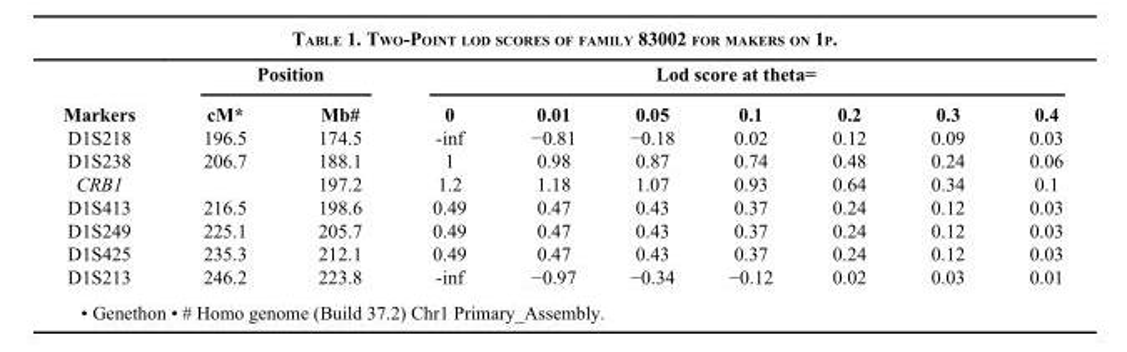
<table><thead><tr><td rowspan="2">Markers</td><td colspan="2">Position</td><td colspan="7">Lod score at theta=</td></tr><tr><td>cM*</td><td>Mb#</td><td>0</td><td>0.01</td><td>0.05</td><td>0.1</td><td>0.2</td><td>0.3</td><td>0.4</td></tr></thead><tbody><tr><td>D1S218</td><td>196.5</td><td>174.5</td><td>-inf</td><td>−0.81</td><td>−0.18</td><td>0.02</td><td>0.12</td><td>0.09</td><td>0.03</td></tr><tr><td>D1S238</td><td>206.7</td><td>188.1</td><td>1</td><td>0.98</td><td>0.87</td><td>0.74</td><td>0.48</td><td>0.24</td><td>0.06</td></tr><tr><td>CRB1</td><td></td><td>197.2</td><td>1.2</td><td>1.18</td><td>1.07</td><td>0.93</td><td>0.64</td><td>0.34</td><td>0.1</td></tr><tr><td>D1S413</td><td>216.5</td><td>198.6</td><td>0.49</td><td>0.47</td><td>0.43</td><td>0.37</td><td>0.24</td><td>0.12</td><td>0.03</td></tr><tr><td>D1S249</td><td>225.1</td><td>205.7</td><td>0.49</td><td>0.47</td><td>0.43</td><td>0.37</td><td>0.24</td><td>0.12</td><td>0.03</td></tr><tr><td>D1S425</td><td>235.3</td><td>212.1</td><td>0.49</td><td>0.47</td><td>0.43</td><td>0.37</td><td>0.24</td><td>0.12</td><td>0.03</td></tr><tr><td>D1S213</td><td>246.2</td><td>223.8</td><td>-inf</td><td>−0.97</td><td>−0.34</td><td>−0.12</td><td>0.02</td><td>0.03</td><td>0.01</td></tr></tbody></table>